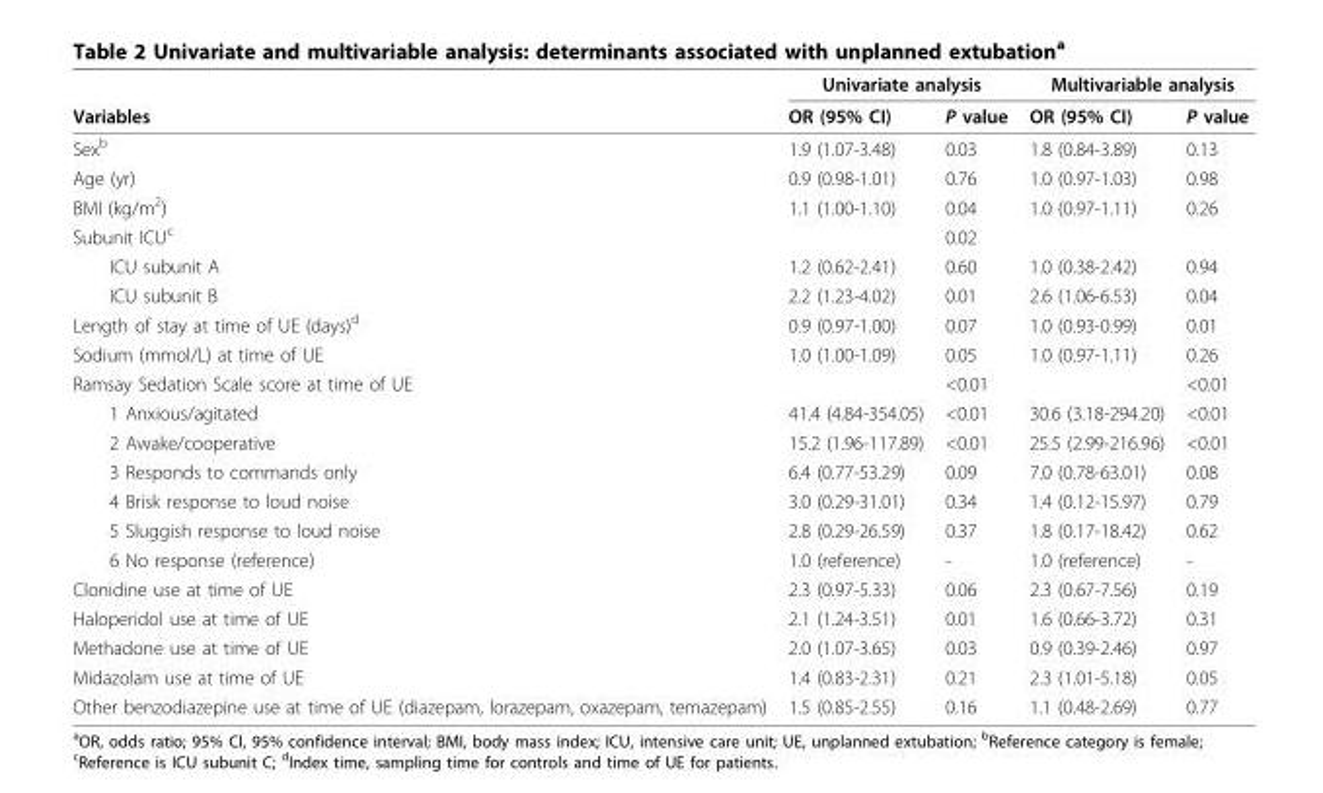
<table><thead><tr><td rowspan="2">Variables</td><td colspan="2">Univariate analysis</td><td colspan="2">Multivariable analysis</td></tr><tr><td>OR (95% CI)</td><td>P value</td><td>OR (95% CI)</td><td>P value</td></tr></thead><tbody><tr><td>Sex<sup>b</sup></td><td>1.9 (1.07-3.48)</td><td>0.03</td><td>1.8 (0.84-3.89)</td><td>0.13</td></tr><tr><td>Age (yr)</td><td>0.9 (0.98-1.01)</td><td>0.76</td><td>1.0 (0.97-1.03)</td><td>0.98</td></tr><tr><td>BMI (kg/m<sup>2</sup>)</td><td>1.1 (1.00-1.10)</td><td>0.04</td><td>1.0 (0.97-1.11)</td><td>0.26</td></tr><tr><td>Subunit ICU<sup>c</sup></td><td></td><td>0.02</td><td></td><td></td></tr><tr><td>ICU subunit A</td><td>1.2 (0.62-2.41)</td><td>0.60</td><td>1.0 (0.38-2.42)</td><td>0.94</td></tr><tr><td>ICU subunit B</td><td>2.2 (1.23-4.02)</td><td>0.01</td><td>2.6 (1.06-6.53)</td><td>0.04</td></tr><tr><td>Length of stay at time of UE (days)<sup>d</sup></td><td>0.9 (0.97-1.00)</td><td>0.07</td><td>1.0 (0.93-0.99)</td><td>0.01</td></tr><tr><td>Sodium (mmol/L) at time of UE</td><td>1.0 (1.00-1.09)</td><td>0.05</td><td>1.0 (0.97-1.11)</td><td>0.26</td></tr><tr><td>Ramsay Sedation Scale score at time of UE</td><td></td><td>&lt;0.01</td><td></td><td>&lt;0.01</td></tr><tr><td>1 Anxious/agitated</td><td>41.4 (4.84-354.05)</td><td>&lt;0.01</td><td>30.6 (3.18-294.20)</td><td>&lt;0.01</td></tr><tr><td>2 Awake/cooperative</td><td>15.2 (1.96-117.89)</td><td>&lt;0.01</td><td>25.5 (2.99-216.96)</td><td>&lt;0.01</td></tr><tr><td>3 Responds to commands only</td><td>6.4 (0.77-53.29)</td><td>0.09</td><td>7.0 (0.78-63.01)</td><td>0.08</td></tr><tr><td>4 Brisk response to loud noise</td><td>3.0 (0.29-31.01)</td><td>0.34</td><td>1.4 (0.12-15.97)</td><td>0.79</td></tr><tr><td>5 Sluggish response to loud noise</td><td>2.8 (0.29-26.59)</td><td>0.37</td><td>1.8 (0.17-18.42)</td><td>0.62</td></tr><tr><td>6 No response (reference)</td><td>1.0 (reference)</td><td>-</td><td>1.0 (reference)</td><td>-</td></tr><tr><td>Clonidine use at time of UE</td><td>2.3 (0.97-5.33)</td><td>0.06</td><td>2.3 (0.67-7.56)</td><td>0.19</td></tr><tr><td>Haloperidol use at time of UE</td><td>2.1 (1.24-3.51)</td><td>0.01</td><td>1.6 (0.66-3.72)</td><td>0.31</td></tr><tr><td>Methadone use at time of UE</td><td>2.0 (1.07-3.65)</td><td>0.03</td><td>0.9 (0.39-2.46)</td><td>0.97</td></tr><tr><td>Midazolam use at time of UE</td><td>1.4 (0.83-2.31)</td><td>0.21</td><td>2.3 (1.01-5.18)</td><td>0.05</td></tr><tr><td>Other benzodiazepine use at time of UE (diazepam, lorazepam, oxazepam, temazepam)</td><td>1.5 (0.85-2.55)</td><td>0.16</td><td>1.1 (0.48-2.69)</td><td>0.77</td></tr></tbody></table>